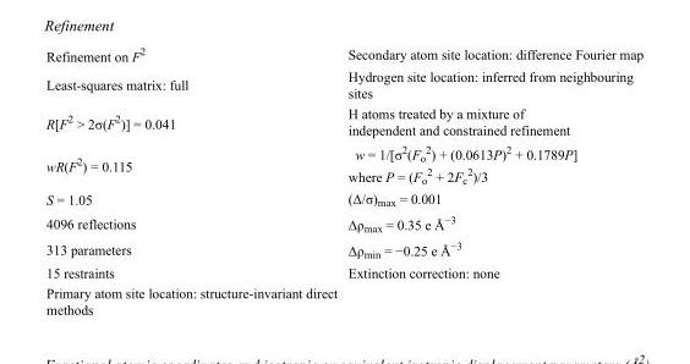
<table><tbody><tr><td>Refinement on F<sup>2</sup></td><td>Secondary atom site location: difference Fourier map</td></tr><tr><td>Least-squares matrix: full</td><td>Hydrogen site location: inferred from neighbouring sites</td></tr><tr><td>R[F<sup>2</sup> &gt; 2σ(F<sup>2</sup>)] = 0.041</td><td>H atoms treated by a mixture of independent and constrained refinement</td></tr><tr><td>wR(F<sup>2</sup>) = 0.115</td><td>w = 1/[σ<sup>2</sup>(F<sub>o</sub> <sup>2</sup>) + (0.0613P)<sup>2</sup> + 0.1789P] where P = (F<sub>o</sub> <sup>2</sup> + 2F<sub>c</sub> <sup>2</sup>)/3</td></tr><tr><td>S = 1.05</td><td>(Δ/σ)<sub>max</sub> = 0.001</td></tr><tr><td>4096 reflections</td><td>Δρ<sub>max</sub> = 0.35 e Å<sup>−3</sup></td></tr><tr><td>313 parameters</td><td>Δρ<sub>min</sub> = −0.25 e Å<sup>−3</sup></td></tr><tr><td>15 restraints</td><td>Extinction correction: none</td></tr><tr><td>Primary atom site location: structure-invariant direct methods</td><td></td></tr></tbody></table>